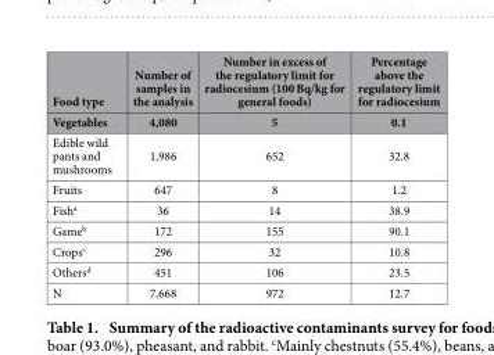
<table><thead><tr><td rowspan="2">Food type Vegetables</td><td rowspan="2">Number of samples in the analysis 4,080</td><td rowspan="2">Number in excess of the regulatory limit for radiocesium (100 Bq/kg for general foods) 5</td><td rowspan="2">Percentage above the regulatory limit for radiocesium 0.1</td></tr><tr></tr></thead><tbody><tr><td>Edible wild pants and mushrooms</td><td>1,986</td><td>652</td><td>32.8</td></tr><tr><td>Fruits</td><td>647</td><td>8</td><td>1.2</td></tr><tr><td>Fish<sup>a</sup></td><td>36</td><td>14</td><td>38.9</td></tr><tr><td>Game<sup>b</sup></td><td>172</td><td>155</td><td>90.1</td></tr><tr><td>Crops<sup>c</sup></td><td>296</td><td>32</td><td>10.8</td></tr><tr><td>Others<sup>d</sup></td><td>451</td><td>106</td><td>23.5</td></tr><tr><td>N</td><td>7,668</td><td>972</td><td>12.7</td></tr></tbody></table>